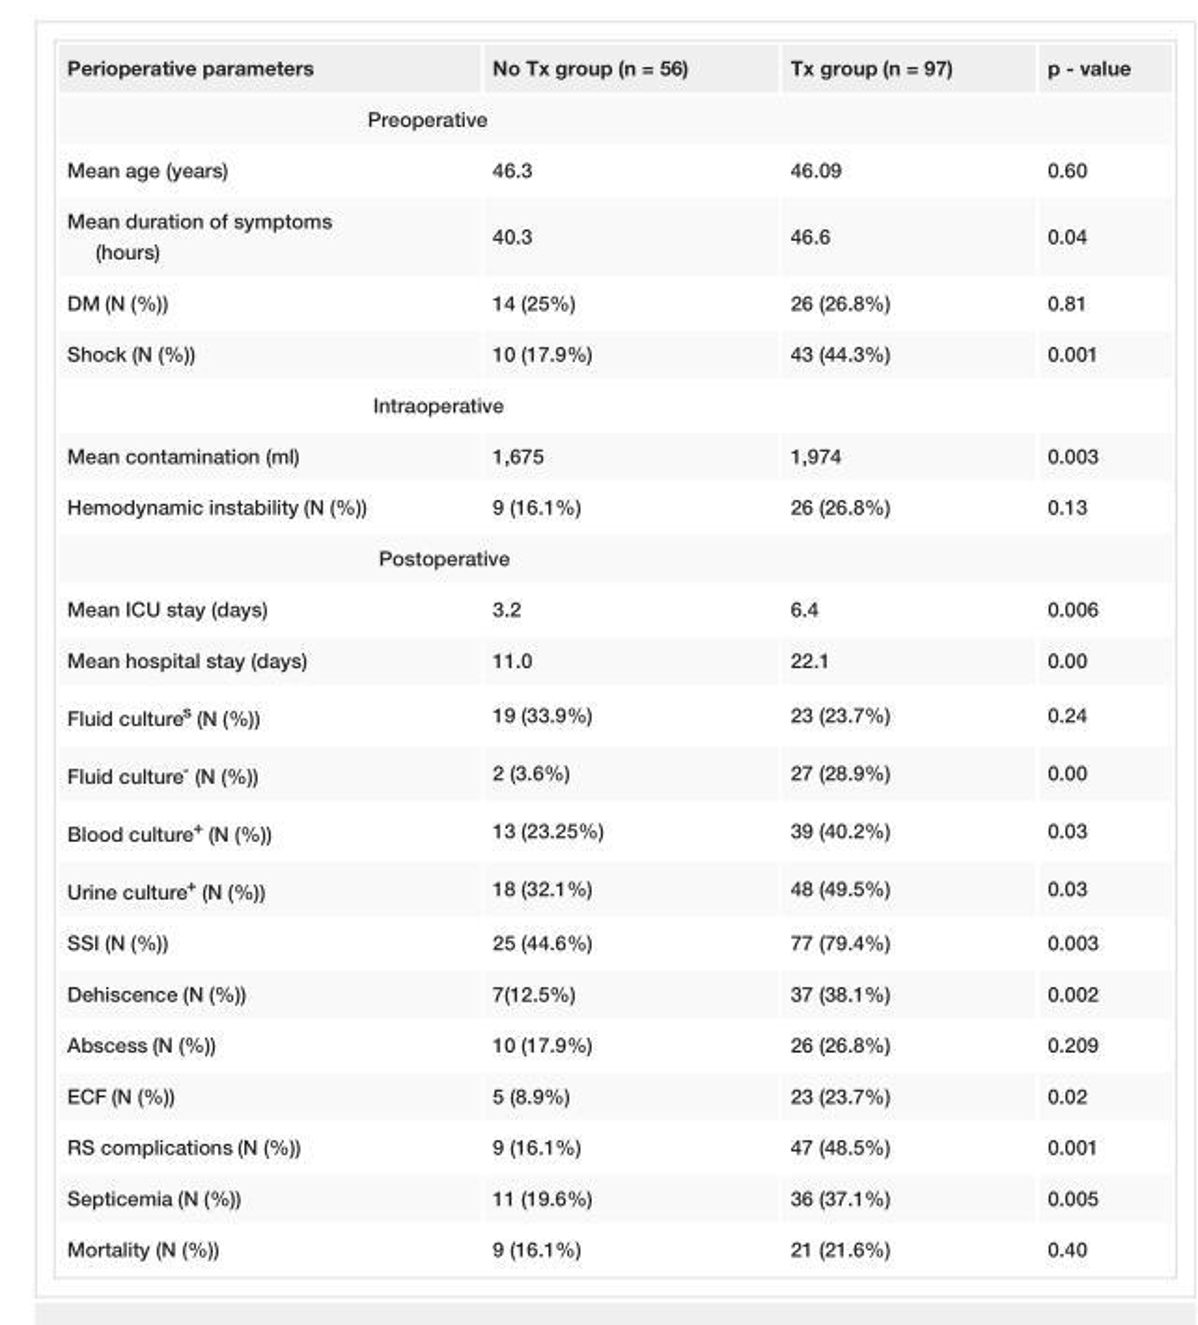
<table><tbody><tr><td>Perioperative parameters</td><td>No Tx group (n = 56)</td><td>Tx group (n = 97)</td><td>p - value</td></tr><tr><td colspan="4">Preoperative</td></tr><tr><td>Mean age (years)</td><td>46.3</td><td>46.09</td><td>0.60</td></tr><tr><td>Mean duration of symptoms (hours)</td><td>40.3</td><td>46.6</td><td>0.04</td></tr><tr><td>DM (N (%))</td><td>14 (25%)</td><td>26 (26.8%)</td><td>0.81</td></tr><tr><td>Shock (N (%))</td><td>10 (17.9%)</td><td>43 (44.3%)</td><td>0.001</td></tr><tr><td colspan="4">Intraoperative</td></tr><tr><td>Mean contamination (ml)</td><td>1,675</td><td>1,974</td><td>0.003</td></tr><tr><td>Hemodynamic instability (N (%))</td><td>9 (16.1%)</td><td>26 (26.8%)</td><td>0.13</td></tr><tr><td colspan="4">Postoperative</td></tr><tr><td>Mean ICU stay (days)</td><td>3.2</td><td>6.4</td><td>0.006</td></tr><tr><td>Mean hospital stay (days)</td><td>11.0</td><td>22.1</td><td>0.00</td></tr><tr><td>Fluid culture<sup>s</sup> (N (%))</td><td>19 (33.9%)</td><td>23 (23.7%)</td><td>0.24</td></tr><tr><td>Fluid culture<sup>-</sup> (N (%))</td><td>2 (3.6%)</td><td>27 (28.9%)</td><td>0.00</td></tr><tr><td>Blood culture<sup>+</sup> (N (%))</td><td>13 (23.25%)</td><td>39 (40.2%)</td><td>0.03</td></tr><tr><td>Urine culture<sup>+</sup> (N (%))</td><td>18 (32.1%)</td><td>48 (49.5%)</td><td>0.03</td></tr><tr><td>SSI (N (%))</td><td>25 (44.6%)</td><td>77 (79.4%)</td><td>0.003</td></tr><tr><td>Dehiscence (N (%))</td><td>7(12.5%)</td><td>37 (38.1%)</td><td>0.002</td></tr><tr><td>Abscess (N (%))</td><td>10 (17.9%)</td><td>26 (26.8%)</td><td>0.209</td></tr><tr><td>ECF (N (%))</td><td>5 (8.9%)</td><td>23 (23.7%)</td><td>0.02</td></tr><tr><td>RS complications (N (%))</td><td>9 (16.1%)</td><td>47 (48.5%)</td><td>0.001</td></tr><tr><td>Septicemia (N (%))</td><td>11 (19.6%)</td><td>36 (37.1%)</td><td>0.005</td></tr><tr><td>Mortality (N (%))</td><td>9 (16.1%)</td><td>21 (21.6%)</td><td>0.40</td></tr></tbody></table>